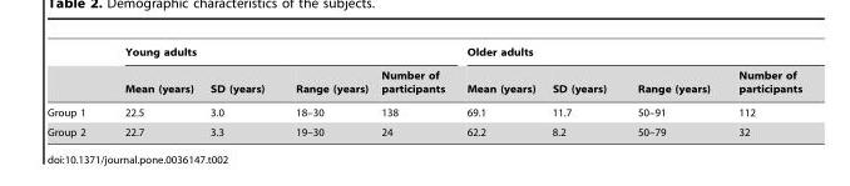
<table><thead><tr><td rowspan="2"></td><td colspan="4">Young adults</td><td colspan="4">Older adults</td></tr><tr><td>Mean (years)</td><td>SD (years)</td><td>Range (years)</td><td>Number of participants</td><td>Mean (years)</td><td>SD (years)</td><td>Range (years)</td><td>Number of participants</td></tr></thead><tbody><tr><td>Group 1</td><td>22.5</td><td>3.0</td><td>18–30</td><td>138</td><td>69.1</td><td>11.7</td><td>50–91</td><td>112</td></tr><tr><td>Group 2</td><td>22.7</td><td>3.3</td><td>19–30</td><td>24</td><td>62.2</td><td>8.2</td><td>50–79</td><td>32</td></tr></tbody></table>